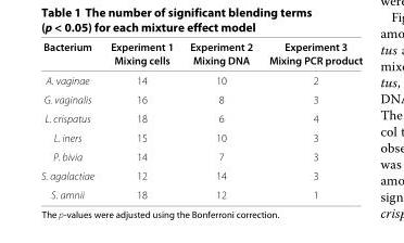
<table><thead><tr><td rowspan="2">Bacterium</td><td rowspan="2">Experiment 1 Mixing cells</td><td rowspan="2">Experiment 2 Mixing DNA</td><td rowspan="2">Experiment 3 Mixing PCR product</td></tr><tr></tr></thead><tbody><tr><td>A. vaginae</td><td>14</td><td>10</td><td>2</td></tr><tr><td>G. vaginalis</td><td>16</td><td>8</td><td>3</td></tr><tr><td>L. crispatus</td><td>18</td><td>6</td><td>4</td></tr><tr><td>L. iners</td><td>15</td><td>10</td><td>3</td></tr><tr><td>P. bivia</td><td>14</td><td>7</td><td>3</td></tr><tr><td>S. agalactiae</td><td>12</td><td>14</td><td>3</td></tr><tr><td>S. amnii</td><td>18</td><td>12</td><td>1</td></tr></tbody></table>